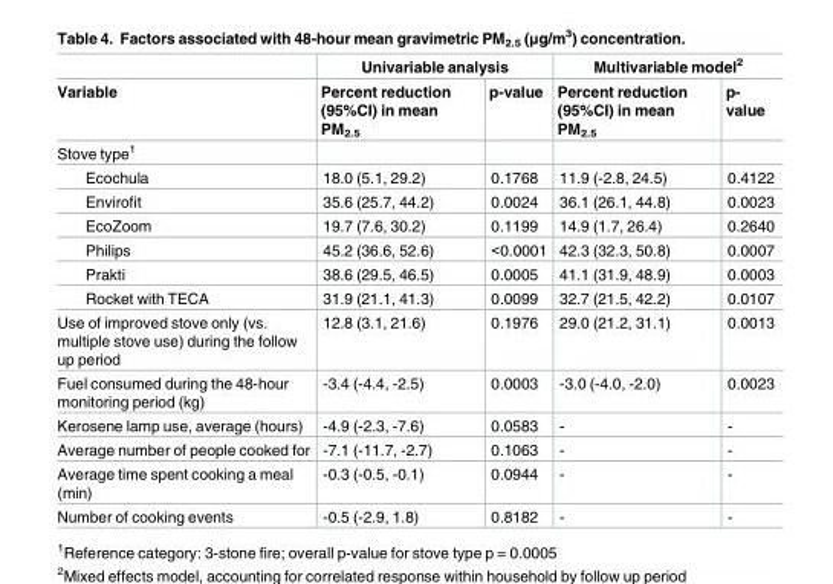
<table><thead><tr><td rowspan="2">Variable</td><td colspan="2">Univariable analysis</td><td colspan="2">Multivariable model<sup>2</sup></td></tr><tr><td>Percent reduction (95%CI) in mean PM<sub>2.5</sub></td><td>p-value</td><td>Percent reduction (95%CI) in mean PM<sub>2.5</sub></td><td>p- value</td></tr></thead><tbody><tr><td colspan="5">Stove type<sup>1</sup></td></tr><tr><td>Ecochula</td><td>18.0 (5.1, 29.2)</td><td>0.1768</td><td>11.9 (-2.8, 24.5)</td><td>0.4122</td></tr><tr><td>Envirofit</td><td>35.6 (25.7, 44.2)</td><td>0.0024</td><td>36.1 (26.1, 44.8)</td><td>0.0023</td></tr><tr><td>EcoZoom</td><td>19.7 (7.6, 30.2)</td><td>0.1199</td><td>14.9 (1.7, 26.4)</td><td>0.2640</td></tr><tr><td>Philips</td><td>45.2 (36.6, 52.6)</td><td>&lt;0.0001</td><td>42.3 (32.3, 50.8)</td><td>0.0007</td></tr><tr><td>Prakti</td><td>38.6 (29.5, 46.5)</td><td>0.0005</td><td>41.1 (31.9, 48.9)</td><td>0.0003</td></tr><tr><td>Rocket with TECA</td><td>31.9 (21.1, 41.3)</td><td>0.0099</td><td>32.7 (21.5, 42.2)</td><td>0.0107</td></tr><tr><td>Use of improved stove only (vs. multiple stove use) during the follow up period</td><td>12.8 (3.1, 21.6)</td><td>0.1976</td><td>29.0 (21.2, 31.1)</td><td>0.0013</td></tr><tr><td>Fuel consumed during the 48-hour monitoring period (kg)</td><td>-3.4 (-4.4, -2.5)</td><td>0.0003</td><td>-3.0 (-4.0, -2.0)</td><td>0.0023</td></tr><tr><td>Kerosene lamp use, average (hours)</td><td>-4.9 (-2.3, -7.6)</td><td>0.0583</td><td>-</td><td>-</td></tr><tr><td>Average number of people cooked for</td><td>-7.1 (-11.7, -2.7)</td><td>0.1063</td><td>-</td><td>-</td></tr><tr><td>Average time spent cooking a meal (min)</td><td>-0.3 (-0.5, -0.1)</td><td>0.0944</td><td>-</td><td>-</td></tr><tr><td>Number of cooking events</td><td>-0.5 (-2.9, 1.8)</td><td>0.8182</td><td>-</td><td>-</td></tr></tbody></table>